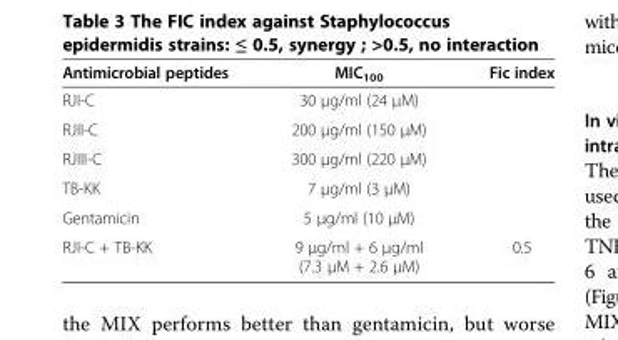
<table><thead><tr><td>Antimicrobial peptides</td><td>MIC<sub>100</sub></td><td>Fic index</td></tr></thead><tbody><tr><td>RJI-C</td><td>30 μg/ml (24 μM)</td><td></td></tr><tr><td>RJII-C</td><td>200 μg/ml (150 μM)</td><td></td></tr><tr><td>RJIII-C</td><td>300 μg/ml (220 μM)</td><td></td></tr><tr><td>TB-KK</td><td>7 μg/ml (3 μM)</td><td></td></tr><tr><td>Gentamicin</td><td>5 μg/ml (10 μM)</td><td></td></tr><tr><td>RJI-C + TB-KK</td><td>9 μg/ml + 6 μg/ml (7.3 μM + 2.6 μM)</td><td>0.5</td></tr></tbody></table>